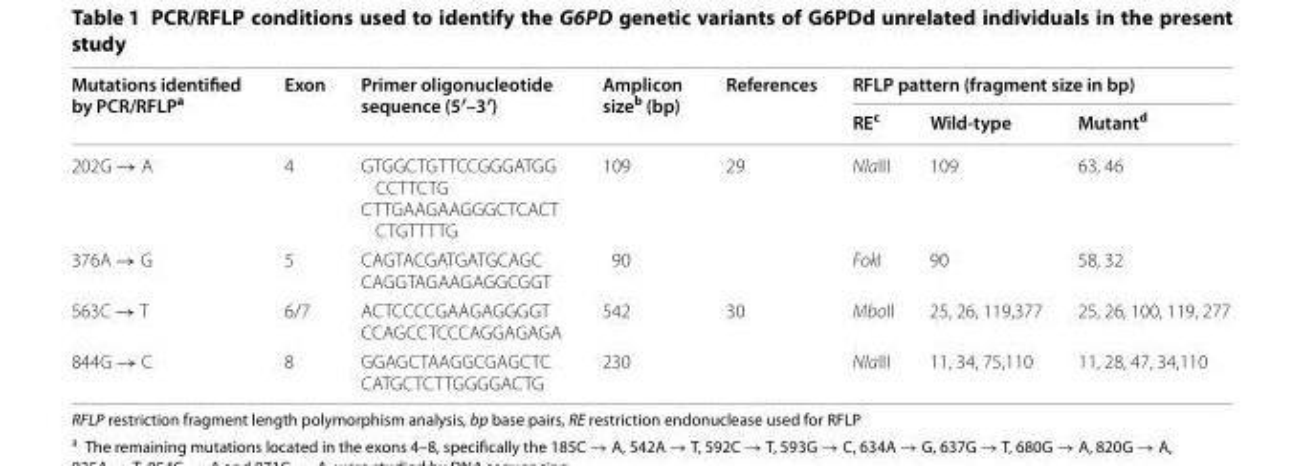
<table><thead><tr><td rowspan="2">Mutations identified by PCR/RFLP<sup>a</sup></td><td rowspan="2">Exon</td><td rowspan="2">Primer oligonucleotide sequence (5′–3′)</td><td rowspan="2">Amplicon size<sup>b</sup> (bp)</td><td rowspan="2">References</td><td colspan="3">RFLP pattern (fragment size in bp)</td></tr><tr><td>RE<sup>c</sup></td><td>Wild-type</td><td>Mutant<sup>d</sup></td></tr></thead><tbody><tr><td>202G → A</td><td>4</td><td>GTGGCTGTTCCGGGATGG CCTTCTG CTTGAAGAAGGGCTCACT CTGTTTTG</td><td>109</td><td rowspan="2">29</td><td>NlaIII</td><td>109</td><td>63, 46</td></tr><tr><td>376A → G</td><td>5</td><td>CAGTACGATGATGCAGC CAGGTAGAAGAGGCGGT</td><td>90</td><td>FokI</td><td>90</td><td>58, 32</td></tr><tr><td>563C → T</td><td>6/7</td><td>ACTCCCCGAAGAGGGGT CCAGCCTCCCAGGAGAGA</td><td>542</td><td rowspan="2">30</td><td>MboII</td><td>25, 26, 119,377</td><td>25, 26, 100, 119, 277</td></tr><tr><td>844G → C</td><td>8</td><td>GGAGCTAAGGCGAGCTC CATGCTCTTGGGGACTG</td><td>230</td><td>NlaIII</td><td>11, 34, 75,110</td><td>11, 28, 47, 34,110</td></tr></tbody></table>